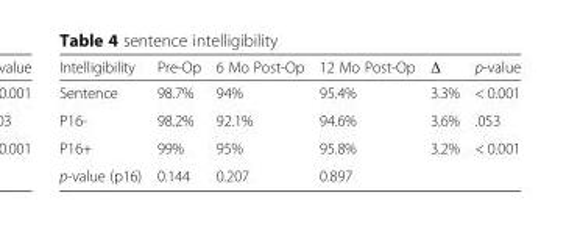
<table><thead><tr><td>Intelligibility</td><td>Pre-Op</td><td>6 Mo Post-Op</td><td>12 Mo Post-Op</td><td>Δ</td><td>p-value</td></tr></thead><tbody><tr><td>Sentence</td><td>98.7%</td><td>94%</td><td>95.4%</td><td>3.3%</td><td>&lt; 0.001</td></tr><tr><td>P16-</td><td>98.2%</td><td>92.1%</td><td>94.6%</td><td>3.6%</td><td>.053</td></tr><tr><td>P16+</td><td>99%</td><td>95%</td><td>95.8%</td><td>3.2%</td><td>&lt; 0.001</td></tr><tr><td>p-value (p16)</td><td>0.144</td><td>0.207</td><td>0.897</td><td></td><td></td></tr></tbody></table>